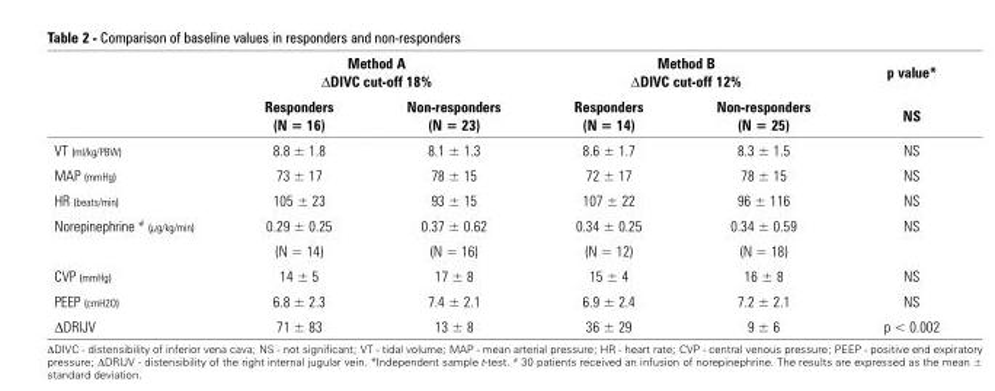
<table><thead><tr><td rowspan="3"></td><td rowspan="2" colspan="2">Method A ∆DIVC cut-off 18%</td><td rowspan="2" colspan="2">Method B ∆DIVC cut-off 12%</td><td rowspan="3">p value* NS</td></tr><tr></tr><tr><td>Responders (N = 16)</td><td>Non-responders (N = 23)</td><td>Responders (N = 14)</td><td>Non-responders (N = 25)</td></tr></thead><tbody><tr><td>VT (ml/kg/PBW)</td><td>8.8 ± 1.8</td><td>8.1 ± 1.3</td><td>8.6 ± 1.7</td><td>8.3 ± 1.5</td><td>NS</td></tr><tr><td>MAP (mmHg)</td><td>73 ± 17</td><td>78 ± 15</td><td>72 ± 17</td><td>78 ± 15</td><td>NS</td></tr><tr><td>HR (beats/min)</td><td>105 ± 23</td><td>93 ± 15</td><td>107 ± 22</td><td>96 ± 116</td><td>NS</td></tr><tr><td rowspan="2">Norepinephrine # (µg/kg/min)</td><td>0.29 ± 0.25</td><td>0.37 ± 0.62</td><td>0.34 ± 0.25</td><td>0.34 ± 0.59</td><td>NS</td></tr><tr><td>(N = 14)</td><td>(N = 16)</td><td>(N = 12)</td><td>(N = 18)</td><td></td></tr><tr><td>CVP (mmHg)</td><td>14 ± 5</td><td>17 ± 8</td><td>15 ± 4</td><td>16 ± 8</td><td>NS</td></tr><tr><td>PEEP (cmH2O)</td><td>6.8 ± 2.3</td><td>7.4 ± 2.1</td><td>6.9 ± 2.4</td><td>7.2 ± 2.1</td><td>NS</td></tr><tr><td>∆DRIJV</td><td>71 ± 83</td><td>13 ± 8</td><td>36 ± 29</td><td>9 ± 6</td><td>p &lt; 0.002</td></tr></tbody></table>